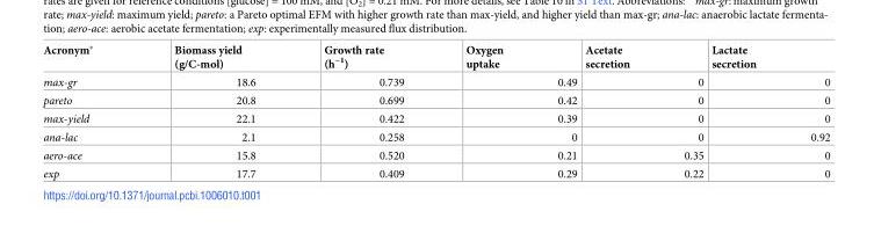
<table><thead><tr><td>Acronym*</td><td>Biomass yield (g/C-mol)</td><td>Growth rate (h<sup>−1</sup>)</td><td>Oxygen uptake</td><td>Acetate secretion</td><td>Lactate secretion</td></tr></thead><tbody><tr><td>max-gr</td><td>18.6</td><td>0.739</td><td>0.49</td><td>0</td><td>0</td></tr><tr><td>pareto</td><td>20.8</td><td>0.699</td><td>0.42</td><td>0</td><td>0</td></tr><tr><td>max-yield</td><td>22.1</td><td>0.422</td><td>0.39</td><td>0</td><td>0</td></tr><tr><td>ana-lac</td><td>2.1</td><td>0.258</td><td>0</td><td>0</td><td>0.92</td></tr><tr><td>aero-ace</td><td>15.8</td><td>0.520</td><td>0.21</td><td>0.35</td><td>0</td></tr><tr><td>exp</td><td>17.7</td><td>0.409</td><td>0.29</td><td>0.22</td><td>0</td></tr></tbody></table>